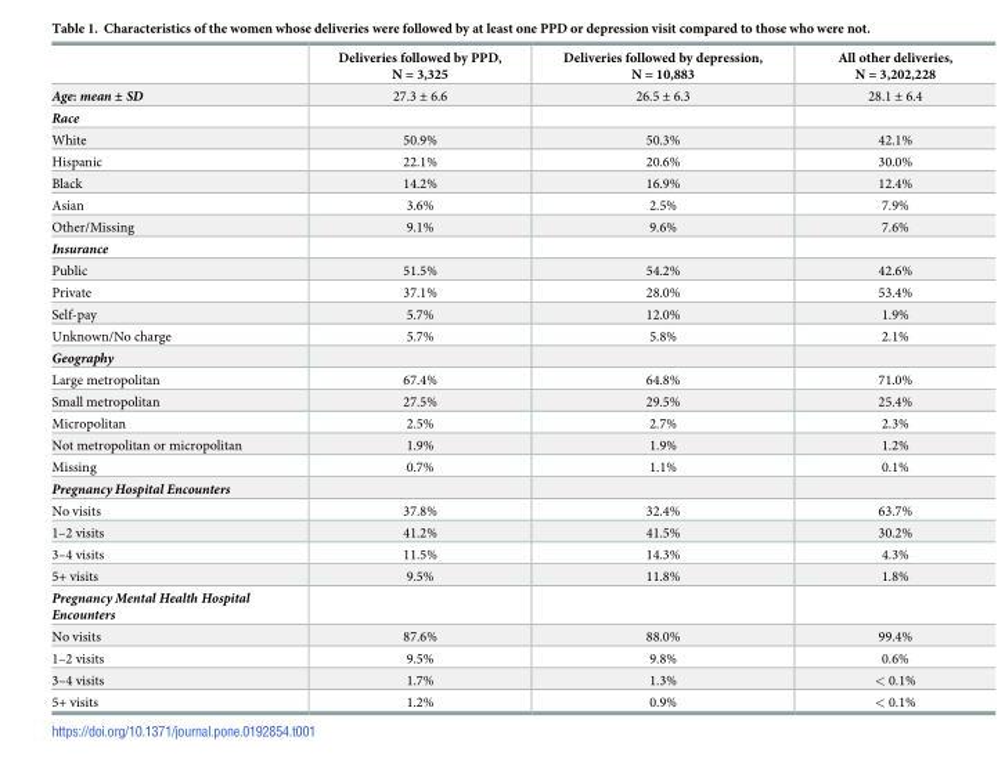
<table><thead><tr><td></td><td>Deliveries followed by PPD, N = 3,325</td><td>Deliveries followed by depression, N = 10,883</td><td>All other deliveries, N = 3,202,228</td></tr></thead><tbody><tr><td>Age: mean ± SD</td><td>27.3 ± 6.6</td><td>26.5 ± 6.3</td><td>28.1 ± 6.4</td></tr><tr><td colspan="4">Race</td></tr><tr><td>White</td><td>50.9%</td><td>50.3%</td><td>42.1%</td></tr><tr><td>Hispanic</td><td>22.1%</td><td>20.6%</td><td>30.0%</td></tr><tr><td>Black</td><td>14.2%</td><td>16.9%</td><td>12.4%</td></tr><tr><td>Asian</td><td>3.6%</td><td>2.5%</td><td>7.9%</td></tr><tr><td>Other/Missing</td><td>9.1%</td><td>9.6%</td><td>7.6%</td></tr><tr><td colspan="4">Insurance</td></tr><tr><td>Public</td><td>51.5%</td><td>54.2%</td><td>42.6%</td></tr><tr><td>Private</td><td>37.1%</td><td>28.0%</td><td>53.4%</td></tr><tr><td>Self-pay</td><td>5.7%</td><td>12.0%</td><td>1.9%</td></tr><tr><td>Unknown/No charge</td><td>5.7%</td><td>5.8%</td><td>2.1%</td></tr><tr><td colspan="4">Geography</td></tr><tr><td>Large metropolitan</td><td>67.4%</td><td>64.8%</td><td>71.0%</td></tr><tr><td>Small metropolitan</td><td>27.5%</td><td>29.5%</td><td>25.4%</td></tr><tr><td>Micropolitan</td><td>2.5%</td><td>2.7%</td><td>2.3%</td></tr><tr><td>Not metropolitan or micropolitan</td><td>1.9%</td><td>1.9%</td><td>1.2%</td></tr><tr><td>Missing</td><td>0.7%</td><td>1.1%</td><td>0.1%</td></tr><tr><td colspan="4">Pregnancy Hospital Encounters</td></tr><tr><td>No visits</td><td>37.8%</td><td>32.4%</td><td>63.7%</td></tr><tr><td>1–2 visits</td><td>41.2%</td><td>41.5%</td><td>30.2%</td></tr><tr><td>3–4 visits</td><td>11.5%</td><td>14.3%</td><td>4.3%</td></tr><tr><td>5+ visits</td><td>9.5%</td><td>11.8%</td><td>1.8%</td></tr><tr><td colspan="4">Pregnancy Mental Health Hospital Encounters</td></tr><tr><td>No visits</td><td>87.6%</td><td>88.0%</td><td>99.4%</td></tr><tr><td>1–2 visits</td><td>9.5%</td><td>9.8%</td><td>0.6%</td></tr><tr><td>3–4 visits</td><td>1.7%</td><td>1.3%</td><td>&lt; 0.1%</td></tr><tr><td>5+ visits</td><td>1.2%</td><td>0.9%</td><td>&lt; 0.1%</td></tr></tbody></table>